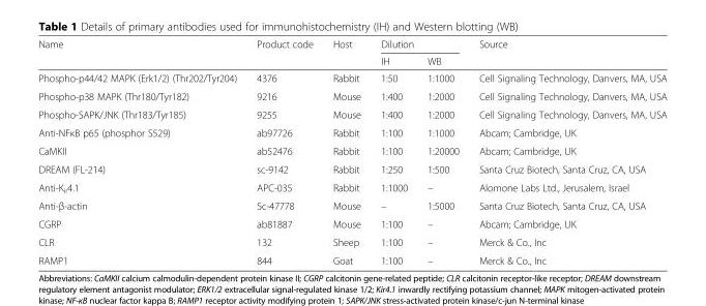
<table><thead><tr><td rowspan="2">Name</td><td rowspan="2">Product code</td><td rowspan="2">Host</td><td colspan="2">Dilution</td><td rowspan="2">Source</td></tr><tr><td>IH</td><td>WB</td></tr></thead><tbody><tr><td>Phospho-p44/42 MAPK (Erk1/2) (Thr202/Tyr204)</td><td>4376</td><td>Rabbit</td><td>1:50</td><td>1:1000</td><td>Cell Signaling Technology, Danvers, MA, USA</td></tr><tr><td>Phospho-p38 MAPK (Thr180/Tyr182)</td><td>9216</td><td>Mouse</td><td>1:400</td><td>1:2000</td><td>Cell Signaling Technology, Danvers, MA, USA</td></tr><tr><td>Phospho-SAPK/JNK (Thr183/Tyr185)</td><td>9255</td><td>Mouse</td><td>1:400</td><td>1:2000</td><td>Cell Signaling Technology, Danvers, MA, USA</td></tr><tr><td>Anti-NFκB p65 (phosphor S529)</td><td>ab97726</td><td>Rabbit</td><td>1:100</td><td>1:1000</td><td>Abcam; Cambridge, UK</td></tr><tr><td>CaMKII</td><td>ab52476</td><td>Rabbit</td><td>1:100</td><td>1:20000</td><td>Abcam; Cambridge, UK</td></tr><tr><td>DREAM (FL-214)</td><td>sc-9142</td><td>Rabbit</td><td>1:250</td><td>1:500</td><td>Santa Cruz Biotech, Santa Cruz, CA, USA</td></tr><tr><td>Anti-K<sub>ir</sub>4.1</td><td>APC-035</td><td>Rabbit</td><td>1:1000</td><td>–</td><td>Alomone Labs Ltd., Jerusalem, Israel</td></tr><tr><td>Anti-β-actin</td><td>Sc-47778</td><td>Mouse</td><td>–</td><td>1:5000</td><td>Santa Cruz Biotech, Santa Cruz, CA, USA</td></tr><tr><td>CGRP</td><td>ab81887</td><td>Mouse</td><td>1:100</td><td>–</td><td>Abcam; Cambridge, UK</td></tr><tr><td>CLR</td><td>132</td><td>Sheep</td><td>1:100</td><td>–</td><td>Merck &amp; Co., Inc</td></tr><tr><td>RAMP1</td><td>844</td><td>Goat</td><td>1:100</td><td>–</td><td>Merck &amp; Co., Inc</td></tr></tbody></table>